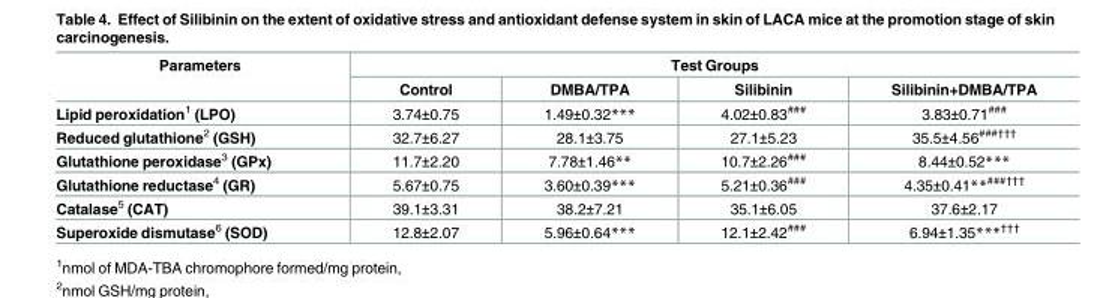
<table><thead><tr><td rowspan="2">Parameters</td><td colspan="4">Test Groups</td></tr><tr><td>Control</td><td>DMBA/TPA</td><td>Silibinin</td><td>Silibinin+DMBA/TPA</td></tr></thead><tbody><tr><td>Lipid peroxidation<sup>1</sup> (LPO)</td><td>3.74±0.75</td><td>1.49±0.32***</td><td>4.02±0.83<sup>###</sup></td><td>3.83±0.71<sup>###</sup></td></tr><tr><td>Reduced glutathione<sup>2</sup> (GSH)</td><td>32.7±6.27</td><td>28.1±3.75</td><td>27.1±5.23</td><td>35.5±4.56<sup>###†††</sup></td></tr><tr><td>Glutathione peroxidase<sup>3</sup> (GPx)</td><td>11.7±2.20</td><td>7.78±1.46**</td><td>10.7±2.26<sup>###</sup></td><td>8.44±0.52***</td></tr><tr><td>Glutathione reductase<sup>4</sup> (GR)</td><td>5.67±0.75</td><td>3.60±0.39***</td><td>5.21±0.36<sup>###</sup></td><td>4.35±0.41**<sup>###†††</sup></td></tr><tr><td>Catalase<sup>5</sup> (CAT)</td><td>39.1±3.31</td><td>38.2±7.21</td><td>35.1±6.05</td><td>37.6±2.17</td></tr><tr><td>Superoxide dismutase<sup>6</sup> (SOD)</td><td>12.8±2.07</td><td>5.96±0.64***</td><td>12.1±2.42<sup>###</sup></td><td>6.94±1.35***<sup>†††</sup></td></tr></tbody></table>